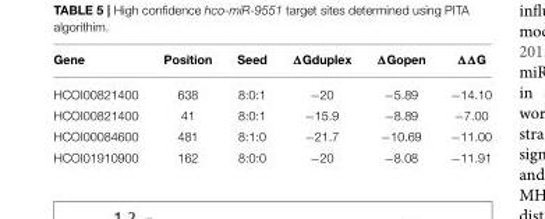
<table><thead><tr><td>Gene</td><td>Position</td><td>Seed</td><td>ΔGduplex</td><td>ΔGopen</td><td>ΔΔG</td></tr></thead><tbody><tr><td>HCOI00821400</td><td>638</td><td>8:0:1</td><td>−20</td><td>−5.89</td><td>−14.10</td></tr><tr><td>HCOI00821400</td><td>41</td><td>8:0:1</td><td>−15.9</td><td>−8.89</td><td>−7.00</td></tr><tr><td>HCOI00084600</td><td>481</td><td>8:1:0</td><td>−21.7</td><td>−10.69</td><td>−11.00</td></tr><tr><td>HCOI01910900</td><td>162</td><td>8:0:0</td><td>−20</td><td>−8.08</td><td>−11.91</td></tr></tbody></table>